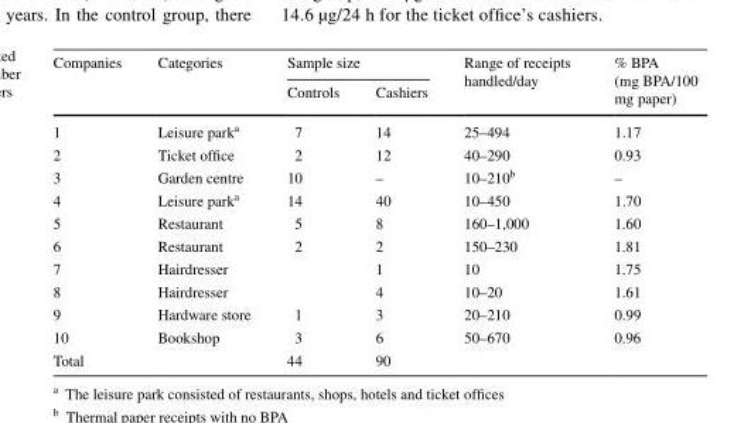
<table><thead><tr><td rowspan="2">Companies</td><td rowspan="2">Categories</td><td colspan="2">Sample size</td><td rowspan="2">Range of receipts handled/day</td><td rowspan="2">% BPA (mg BPA/100 mg paper)</td></tr><tr><td>Controls</td><td>Cashiers</td></tr></thead><tbody><tr><td>1</td><td>Leisure park<sup>a</sup></td><td>7</td><td>14</td><td>25–494</td><td>1.17</td></tr><tr><td>2</td><td>Ticket office</td><td>2</td><td>12</td><td>40–290</td><td>0.93</td></tr><tr><td>3</td><td>Garden centre</td><td>10</td><td>–</td><td>10–210<sup>b</sup></td><td>–</td></tr><tr><td>4</td><td>Leisure park<sup>a</sup></td><td>14</td><td>40</td><td>10–450</td><td>1.70</td></tr><tr><td>5</td><td>Restaurant</td><td>5</td><td>8</td><td>160–1,000</td><td>1.60</td></tr><tr><td>6</td><td>Restaurant</td><td>2</td><td>2</td><td>150–230</td><td>1.81</td></tr><tr><td>7</td><td>Hairdresser</td><td></td><td>1</td><td>10</td><td>1.75</td></tr><tr><td>8</td><td>Hairdresser</td><td></td><td>4</td><td>10–20</td><td>1.61</td></tr><tr><td>9</td><td>Hardware store</td><td>1</td><td>3</td><td>20–210</td><td>0.99</td></tr><tr><td>10</td><td>Bookshop</td><td>3</td><td>6</td><td>50–670</td><td>0.96</td></tr><tr><td>Total</td><td></td><td>44</td><td>90</td><td></td><td></td></tr></tbody></table>